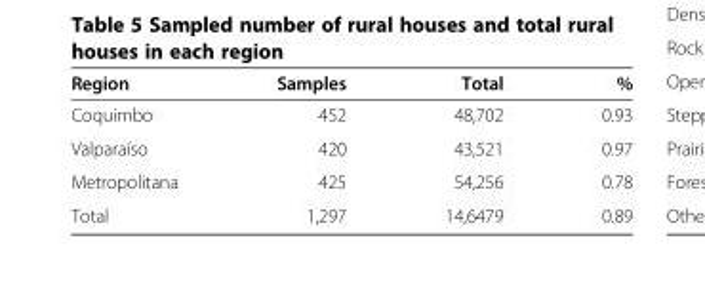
<table><thead><tr><td>Region</td><td>Samples</td><td>Total</td><td>%</td></tr></thead><tbody><tr><td>Coquimbo</td><td>452</td><td>48,702</td><td>0.93</td></tr><tr><td>Valparaíso</td><td>420</td><td>43,521</td><td>0.97</td></tr><tr><td>Metropolitana</td><td>425</td><td>54,256</td><td>0.78</td></tr><tr><td>Total</td><td>1,297</td><td>14,6479</td><td>0.89</td></tr></tbody></table>